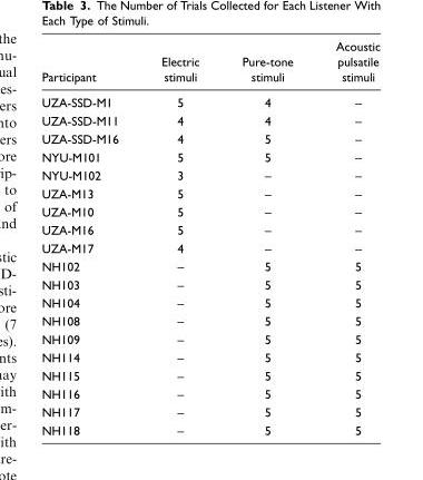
<table><thead><tr><td>Participant</td><td>Electric stimuli</td><td>Pure-tone stimuli</td><td>Acoustic pulsatile stimuli</td></tr></thead><tbody><tr><td>UZA-SSD-M1</td><td>5</td><td>4</td><td>–</td></tr><tr><td>UZA-SSD-M11</td><td>4</td><td>4</td><td>–</td></tr><tr><td>UZA-SSD-M16</td><td>4</td><td>5</td><td>–</td></tr><tr><td>NYU-M101</td><td>5</td><td>5</td><td>–</td></tr><tr><td>NYU-M102</td><td>3</td><td>–</td><td>–</td></tr><tr><td>UZA-M13</td><td>5</td><td>–</td><td>–</td></tr><tr><td>UZA-M10</td><td>5</td><td>–</td><td>–</td></tr><tr><td>UZA-M16</td><td>5</td><td>–</td><td>–</td></tr><tr><td>UZA-M17</td><td>4</td><td>–</td><td>–</td></tr><tr><td>NH102</td><td>–</td><td>5</td><td>5</td></tr><tr><td>NH103</td><td>–</td><td>5</td><td>5</td></tr><tr><td>NH104</td><td>–</td><td>5</td><td>5</td></tr><tr><td>NH108</td><td>–</td><td>5</td><td>5</td></tr><tr><td>NH109</td><td>–</td><td>5</td><td>5</td></tr><tr><td>NH114</td><td>–</td><td>5</td><td>5</td></tr><tr><td>NH115</td><td>–</td><td>5</td><td>5</td></tr><tr><td>NH116</td><td>–</td><td>5</td><td>5</td></tr><tr><td>NH117</td><td>–</td><td>5</td><td>5</td></tr><tr><td>NH118</td><td>–</td><td>5</td><td>5</td></tr></tbody></table>